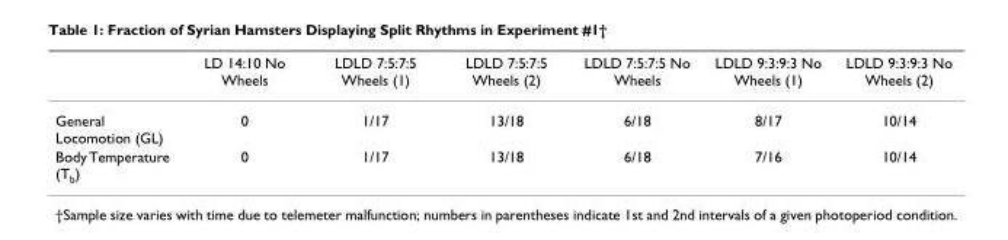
<table><thead><tr><td></td><td>LD 14:10 No Wheels</td><td>LDLD 7:5:7:5 Wheels (1)</td><td>LDLD 7:5:7:5 Wheels (2)</td><td>LDLD 7:5:7:5 No Wheels</td><td>LDLD 9:3:9:3 No Wheels (1)</td><td>LDLD 9:3:9:3 No Wheels (2)</td></tr></thead><tbody><tr><td>General Locomotion (GL)</td><td>0</td><td>1/17</td><td>13/18</td><td>6/18</td><td>8/17</td><td>10/14</td></tr><tr><td>Body Temperature (Tb)</td><td>0</td><td>1/17</td><td>13/18</td><td>6/18</td><td>7/16</td><td>10/14</td></tr></tbody></table>